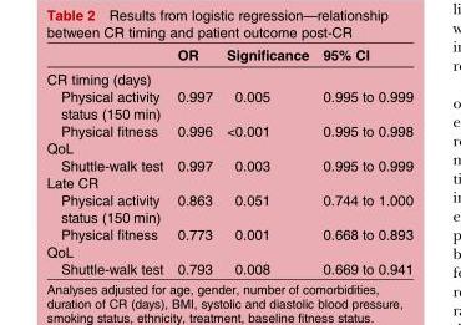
<table><thead><tr><td></td><td>OR</td><td>Significance</td><td>95% CI</td></tr></thead><tbody><tr><td colspan="4">CR timing (days)</td></tr><tr><td>Physical activity status (150 min)</td><td>0.997</td><td>0.005</td><td>0.995 to 0.999</td></tr><tr><td>Physical fitness QoL</td><td>0.996</td><td>&lt;0.001</td><td>0.995 to 0.998</td></tr><tr><td>Shuttle-walk test</td><td>0.997</td><td>0.003</td><td>0.995 to 0.999</td></tr><tr><td colspan="4">Late CR</td></tr><tr><td>Physical activity status (150 min)</td><td>0.863</td><td>0.051</td><td>0.744 to 1.000</td></tr><tr><td>Physical fitness QoL</td><td>0.773</td><td>0.001</td><td>0.668 to 0.893</td></tr><tr><td>Shuttle-walk test</td><td>0.793</td><td>0.008</td><td>0.669 to 0.941</td></tr></tbody></table>